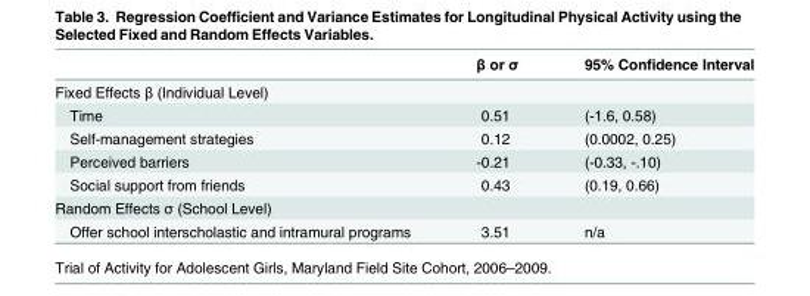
<table><thead><tr><td></td><td>β or σ</td><td>95% Confidence Interval</td></tr></thead><tbody><tr><td colspan="3">Fixed Effects β (Individual Level)</td></tr><tr><td>Time</td><td>0.51</td><td>(-1.6, 0.58)</td></tr><tr><td>Self-management strategies</td><td>0.12</td><td>(0.0002, 0.25)</td></tr><tr><td>Perceived barriers</td><td>-0.21</td><td>(-0.33, -.10)</td></tr><tr><td>Social support from friends</td><td>0.43</td><td>(0.19, 0.66)</td></tr><tr><td colspan="3">Random Effects σ (School Level)</td></tr><tr><td>Offer school interscholastic and intramural programs</td><td>3.51</td><td>n/a</td></tr></tbody></table>